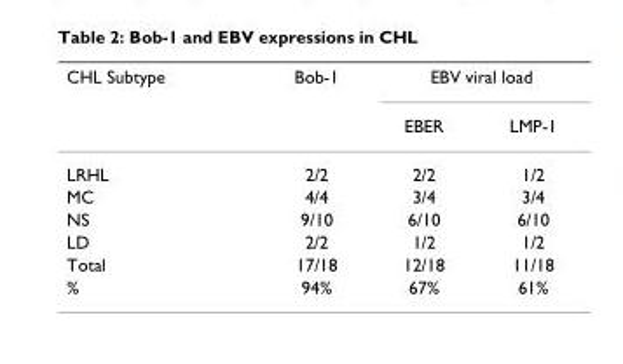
<table><thead><tr><td rowspan="2">CHL Subtype</td><td rowspan="2">Bob-1</td><td colspan="2">EBV viral load</td></tr><tr><td>EBER</td><td>LMP-1</td></tr></thead><tbody><tr><td>LRHL</td><td>2/2</td><td>2/2</td><td>1/2</td></tr><tr><td>MC</td><td>4/4</td><td>3/4</td><td>3/4</td></tr><tr><td>NS</td><td>9/10</td><td>6/10</td><td>6/10</td></tr><tr><td>LD</td><td>2/2</td><td>1/2</td><td>1/2</td></tr><tr><td>Total</td><td>17/18</td><td>12/18</td><td>11/18</td></tr><tr><td>%</td><td>94%</td><td>67%</td><td>61%</td></tr></tbody></table>